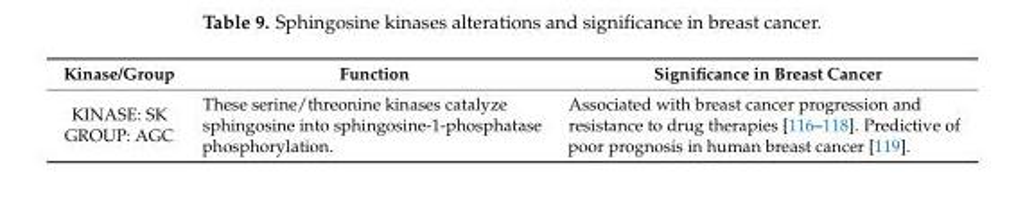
<table><thead><tr><td>Kinase/Group</td><td>Function</td><td>Significance in Breast Cancer</td></tr></thead><tbody><tr><td>KINASE: SK GROUP: AGC</td><td>These serine/threonine kinases catalyze sphingosine into sphingosine-1-phosphatase phosphorylation.</td><td>Associated with breast cancer progression and resistance to drug therapies [116–118]. Predictive of poor prognosis in human breast cancer [119].</td></tr></tbody></table>